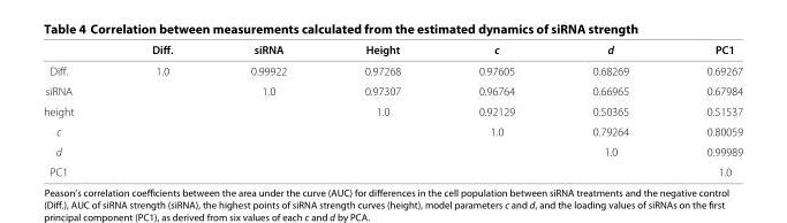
<table><thead><tr><td></td><td>Diff.</td><td>siRNA</td><td>Height</td><td>c</td><td>d</td><td>PC1</td></tr></thead><tbody><tr><td>Diff.</td><td>1.0</td><td>0.99922</td><td>0.97268</td><td>0.97605</td><td>0.68269</td><td>0.69267</td></tr><tr><td>siRNA</td><td></td><td>1.0</td><td>0.97307</td><td>0.96764</td><td>0.66965</td><td>0.67984</td></tr><tr><td>height</td><td></td><td></td><td>1.0</td><td>0.92129</td><td>0.50365</td><td>0.51537</td></tr><tr><td>c</td><td></td><td></td><td></td><td>1.0</td><td>0.79264</td><td>0.80059</td></tr><tr><td>d</td><td></td><td></td><td></td><td></td><td>1.0</td><td>0.99989</td></tr><tr><td>PC1</td><td></td><td></td><td></td><td></td><td></td><td>1.0</td></tr></tbody></table>